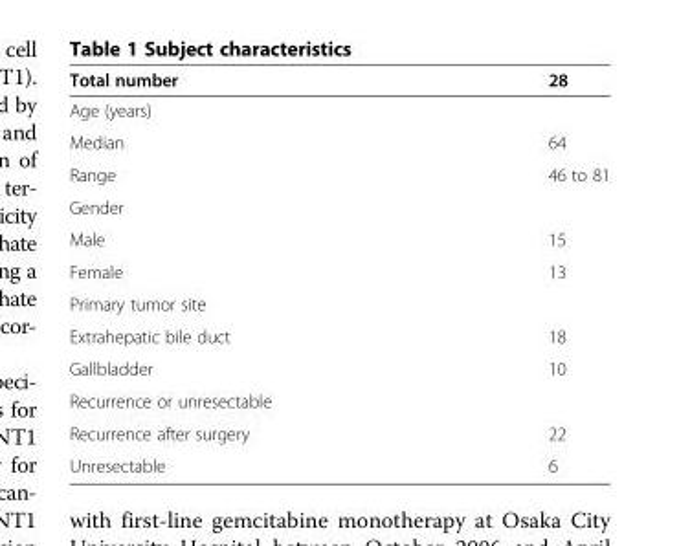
<table><thead><tr><td>Total number</td><td>28</td></tr></thead><tbody><tr><td colspan="2">Age (years)</td></tr><tr><td>Median</td><td>64</td></tr><tr><td>Range</td><td>46 to 81</td></tr><tr><td colspan="2">Gender</td></tr><tr><td>Male</td><td>15</td></tr><tr><td>Female</td><td>13</td></tr><tr><td colspan="2">Primary tumor site</td></tr><tr><td>Extrahepatic bile duct</td><td>18</td></tr><tr><td>Gallbladder</td><td>10</td></tr><tr><td colspan="2">Recurrence or unresectable</td></tr><tr><td>Recurrence after surgery</td><td>22</td></tr><tr><td>Unresectable</td><td>6</td></tr></tbody></table>